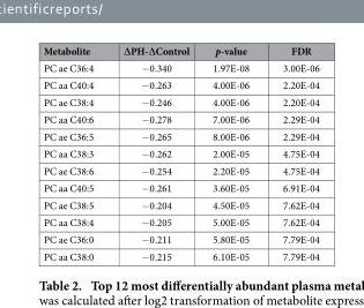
<table><thead><tr><td>Metabolite</td><td>∆PH-∆Control</td><td>p-value</td><td>FDR</td></tr></thead><tbody><tr><td>PC ae C36:4</td><td>− 0.340</td><td>1.97E-08</td><td>3.00E-06</td></tr><tr><td>PC aa C40:4</td><td>− 0.263</td><td>4.00E-06</td><td>2.20E-04</td></tr><tr><td>PC ae C38:4</td><td>− 0.246</td><td>4.00E-06</td><td>2.20E-04</td></tr><tr><td>PC aa C40:6</td><td>− 0.278</td><td>7.00E-06</td><td>2.29E-04</td></tr><tr><td>PC ae C36:5</td><td>− 0.265</td><td>8.00E-06</td><td>2.29E-04</td></tr><tr><td>PC aa C38:3</td><td>− 0.262</td><td>2.00E-05</td><td>4.75E-04</td></tr><tr><td>PC ae C38:6</td><td>− 0.254</td><td>2.20E-05</td><td>4.75E-04</td></tr><tr><td>PC aa C40:5</td><td>− 0.261</td><td>3.60E-05</td><td>6.91E-04</td></tr><tr><td>PC ae C38:5</td><td>− 0.204</td><td>4.50E-05</td><td>7.62E-04</td></tr><tr><td>PC aa C38:4</td><td>− 0.205</td><td>5.00E-05</td><td>7.62E-04</td></tr><tr><td>PC ae C36:0</td><td>− 0.211</td><td>5.80E-05</td><td>7.79E-04</td></tr><tr><td>PC aa C38:0</td><td>− 0.215</td><td>6.10E-05</td><td>7.79E-04</td></tr></tbody></table>